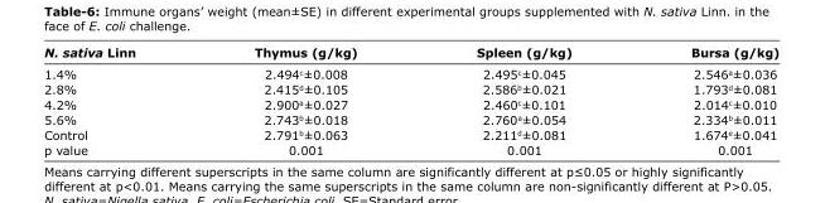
<table><thead><tr><td>N. sativa Linn</td><td>Thymus (g/kg)</td><td>Spleen (g/kg)</td><td>Bursa (g/kg)</td></tr></thead><tbody><tr><td>1.4%</td><td>2.494<sup>c</sup>±0.008</td><td>2.495<sup>c</sup>±0.045</td><td>2.546<sup>a</sup>±0.036</td></tr><tr><td>2.8%</td><td>2.415<sup>d</sup>±0.105</td><td>2.586<sup>b</sup>±0.021</td><td>1.793<sup>d</sup>±0.081</td></tr><tr><td>4.2%</td><td>2.900<sup>a</sup>±0.027</td><td>2.460<sup>c</sup>±0.101</td><td>2.014<sup>c</sup>±0.010</td></tr><tr><td>5.6%</td><td>2.743<sup>b</sup>±0.018</td><td>2.760<sup>a</sup>±0.054</td><td>2.334<sup>b</sup>±0.011</td></tr><tr><td>Control</td><td>2.791<sup>b</sup>±0.063</td><td>2.211<sup>d</sup>±0.081</td><td>1.674<sup>e</sup>±0.041</td></tr><tr><td>p value</td><td>0.001</td><td>0.001</td><td>0.001</td></tr></tbody></table>